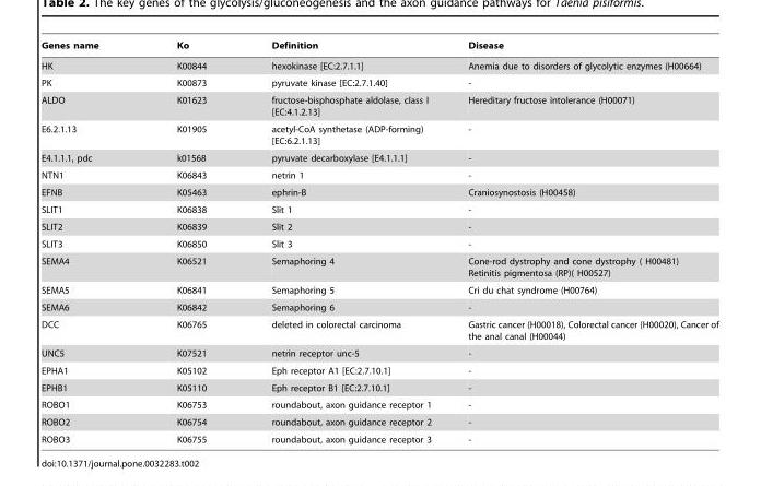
<table><thead><tr><td>Genes name</td><td>Ko</td><td>Definition</td><td>Disease</td></tr></thead><tbody><tr><td>HK</td><td>K00844</td><td>hexokinase [EC:2.7.1.1]</td><td>Anemia due to disorders of glycolytic enzymes (H00664)</td></tr><tr><td>PK</td><td>K00873</td><td>pyruvate kinase [EC:2.7.1.40]</td><td>-</td></tr><tr><td>ALDO</td><td>K01623</td><td>fructose-bisphosphate aldolase, class I [EC:4.1.2.13]</td><td>Hereditary fructose intolerance (H00071)</td></tr><tr><td>E6.2.1.13</td><td>K01905</td><td>acetyl-CoA synthetase (ADP-forming) [EC:6.2.1.13]</td><td>-</td></tr><tr><td>E4.1.1.1, pdc</td><td>k01568</td><td>pyruvate decarboxylase [E4.1.1.1]</td><td>-</td></tr><tr><td>NTN1</td><td>K06843</td><td>netrin 1</td><td>-</td></tr><tr><td>EFNB</td><td>K05463</td><td>ephrin-B</td><td>Craniosynostosis (H00458)</td></tr><tr><td>SLIT1</td><td>K06838</td><td>Slit 1</td><td>-</td></tr><tr><td>SLIT2</td><td>K06839</td><td>Slit 2</td><td>-</td></tr><tr><td>SLIT3</td><td>K06850</td><td>Slit 3</td><td>-</td></tr><tr><td>SEMA4</td><td>K06521</td><td>Semaphoring 4</td><td>Cone-rod dystrophy and cone dystrophy ( H00481) Retinitis pigmentosa (RP)( H00527)</td></tr><tr><td>SEMA5</td><td>K06841</td><td>Semaphoring 5</td><td>Cri du chat syndrome (H00764)</td></tr><tr><td>SEMA6</td><td>K06842</td><td>Semaphoring 6</td><td>-</td></tr><tr><td>DCC</td><td>K06765</td><td>deleted in colorectal carcinoma</td><td>Gastric cancer (H00018), Colorectal cancer (H00020), Cancer of the anal canal (H00044)</td></tr><tr><td>UNC5</td><td>K07521</td><td>netrin receptor unc-5</td><td>-</td></tr><tr><td>EPHA1</td><td>K05102</td><td>Eph receptor A1 [EC:2.7.10.1]</td><td>-</td></tr><tr><td>EPHB1</td><td>K05110</td><td>Eph receptor B1 [EC:2.7.10.1]</td><td>-</td></tr><tr><td>ROBO1</td><td>K06753</td><td>roundabout, axon guidance receptor 1</td><td>-</td></tr><tr><td>ROBO2</td><td>K06754</td><td>roundabout, axon guidance receptor 2</td><td>-</td></tr><tr><td>ROBO3</td><td>K06755</td><td>roundabout, axon guidance receptor 3</td><td>-</td></tr></tbody></table>